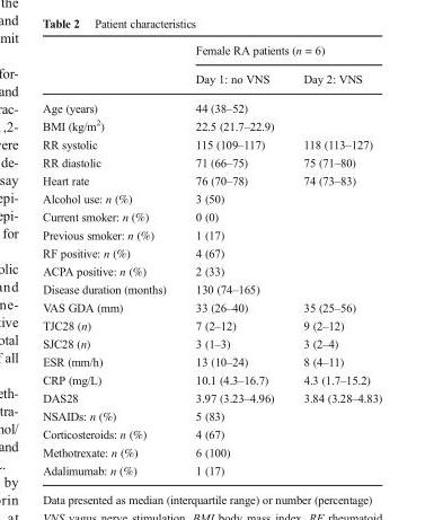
<table><thead><tr><td rowspan="2"></td><td colspan="2">Female RA patients (n = 6)</td></tr><tr><td>Day 1: no VNS</td><td>Day 2: VNS</td></tr></thead><tbody><tr><td>Age (years)</td><td>44 (38–52)</td><td></td></tr><tr><td>BMI (kg/m<sup>2</sup>)</td><td>22.5 (21.7–22.9)</td><td></td></tr><tr><td>RR systolic</td><td>115 (109–117)</td><td>118 (113–127)</td></tr><tr><td>RR diastolic</td><td>71 (66–75)</td><td>75 (71–80)</td></tr><tr><td>Heart rate</td><td>76 (70–78)</td><td>74 (73–83)</td></tr><tr><td>Alcohol use: n (%)</td><td>3 (50)</td><td></td></tr><tr><td>Current smoker: n (%)</td><td>0 (0)</td><td></td></tr><tr><td>Previous smoker: n (%)</td><td>1 (17)</td><td></td></tr><tr><td>RF positive: n (%)</td><td>4 (67)</td><td></td></tr><tr><td>ACPA positive: n (%)</td><td>2 (33)</td><td></td></tr><tr><td>Disease duration (months)</td><td>130 (74–165)</td><td></td></tr><tr><td>VAS GDA (mm)</td><td>33 (26–40)</td><td>35 (25–56)</td></tr><tr><td>TJC28 (n)</td><td>7 (2–12)</td><td>9 (2–12)</td></tr><tr><td>SJC28 (n)</td><td>3 (1–3)</td><td>3 (2–4)</td></tr><tr><td>ESR (mm/h)</td><td>13 (10–24)</td><td>8 (4–11)</td></tr><tr><td>CRP (mg/L)</td><td>10.1 (4.3–16.7)</td><td>4.3 (1.7–15.2)</td></tr><tr><td>DAS28</td><td>3.97 (3.23–4.96)</td><td>3.84 (3.28–4.83)</td></tr><tr><td>NSAIDs: n (%)</td><td>5 (83)</td><td></td></tr><tr><td>Corticosteroids: n (%)</td><td>4 (67)</td><td></td></tr><tr><td>Methotrexate: n (%)</td><td>6 (100)</td><td></td></tr><tr><td>Adalimumab: n (%)</td><td>1 (17)</td><td></td></tr></tbody></table>